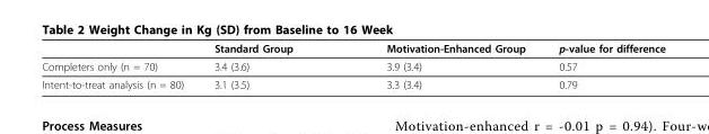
<table><thead><tr><td></td><td>Standard Group</td><td>Motivation-Enhanced Group</td><td>p-value for difference</td></tr></thead><tbody><tr><td>Completers only (n = 70)</td><td>3.4 (3.6)</td><td>3.9 (3.4)</td><td>0.57</td></tr><tr><td>Intent-to-treat analysis (n = 80)</td><td>3.1 (3.5)</td><td>3.3 (3.4)</td><td>0.79</td></tr></tbody></table>